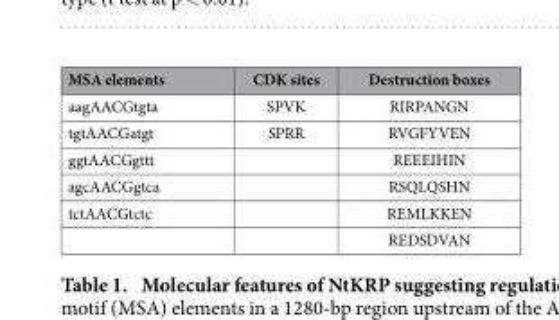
<table><thead><tr><td>MSA elements</td><td>CDK sites</td><td>Destruction boxes</td></tr></thead><tbody><tr><td>aagAACGtgta</td><td>SPVK</td><td>RIRPANGN</td></tr><tr><td>tgtAACGatgt</td><td>SPRR</td><td>RVGFYVEN</td></tr><tr><td>ggtAACGgttt</td><td></td><td>REEEIHIN</td></tr><tr><td>agcAACGgtca</td><td></td><td>RSQLQSHN</td></tr><tr><td rowspan="2">tctAACGtctc</td><td></td><td>REMLKKEN</td></tr><tr><td></td><td>REDSDVAN</td></tr></tbody></table>